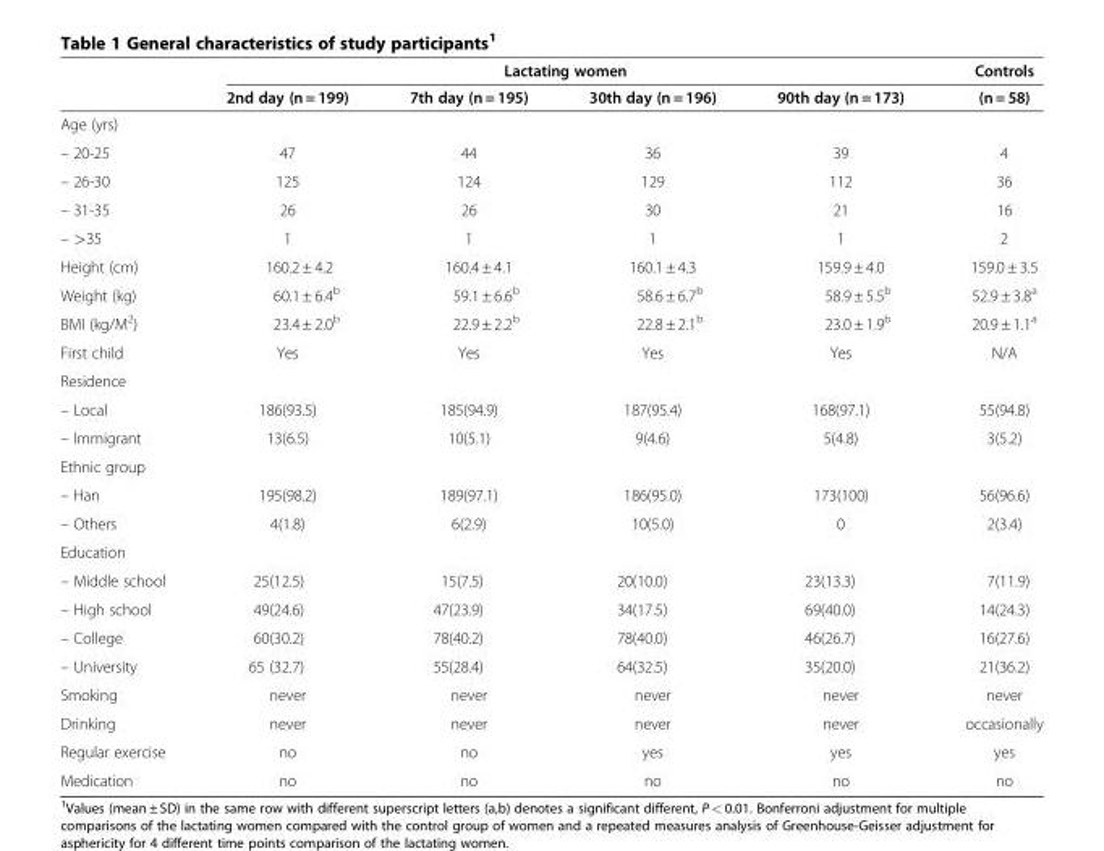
<table><thead><tr><td rowspan="2"></td><td colspan="4">Lactating women</td><td rowspan="2">Controls (n = 58)</td></tr><tr><td>2nd day (n = 199)</td><td>7th day (n = 195)</td><td>30th day (n = 196)</td><td>90th day (n = 173)</td></tr></thead><tbody><tr><td colspan="6">Age (yrs)</td></tr><tr><td>– 20-25</td><td>47</td><td>44</td><td>36</td><td>39</td><td>4</td></tr><tr><td>– 26-30</td><td>125</td><td>124</td><td>129</td><td>112</td><td>36</td></tr><tr><td>– 31-35</td><td>26</td><td>26</td><td>30</td><td>21</td><td>16</td></tr><tr><td>– &gt;35</td><td>1</td><td>1</td><td>1</td><td>1</td><td>2</td></tr><tr><td>Height (cm)</td><td>160.2 ± 4.2</td><td>160.4 ± 4.1</td><td>160.1 ± 4.3</td><td>159.9 ± 4.0</td><td>159.0 ± 3.5</td></tr><tr><td>Weight (kg)</td><td>60.1 ± 6.4<sup>b</sup></td><td>59.1 ± 6.6<sup>b</sup></td><td>58.6 ± 6.7<sup>b</sup></td><td>58.9 ± 5.5<sup>b</sup></td><td>52.9 ± 3.8<sup>a</sup></td></tr><tr><td>BMI (kg/M<sup>2</sup>)</td><td>23.4 ± 2.0<sup>b</sup></td><td>22.9 ± 2.2<sup>b</sup></td><td>22.8 ± 2.1<sup>b</sup></td><td>23.0 ± 1.9<sup>b</sup></td><td>20.9 ± 1.1<sup>a</sup></td></tr><tr><td>First child</td><td>Yes</td><td>Yes</td><td>Yes</td><td>Yes</td><td>N/A</td></tr><tr><td colspan="6">Residence</td></tr><tr><td>– Local</td><td>186(93.5)</td><td>185(94.9)</td><td>187(95.4)</td><td>168(97.1)</td><td>55(94.8)</td></tr><tr><td>– Immigrant</td><td>13(6.5)</td><td>10(5.1)</td><td>9(4.6)</td><td>5(4.8)</td><td>3(5.2)</td></tr><tr><td colspan="6">Ethnic group</td></tr><tr><td>– Han</td><td>195(98.2)</td><td>189(97.1)</td><td>186(95.0)</td><td>173(100)</td><td>56(96.6)</td></tr><tr><td>– Others</td><td>4(1.8)</td><td>6(2.9)</td><td>10(5.0)</td><td>0</td><td>2(3.4)</td></tr><tr><td colspan="6">Education</td></tr><tr><td>– Middle school</td><td>25(12.5)</td><td>15(7.5)</td><td>20(10.0)</td><td>23(13.3)</td><td>7(11.9)</td></tr><tr><td>– High school</td><td>49(24.6)</td><td>47(23.9)</td><td>34(17.5)</td><td>69(40.0)</td><td>14(24.3)</td></tr><tr><td>– College</td><td>60(30.2)</td><td>78(40.2)</td><td>78(40.0)</td><td>46(26.7)</td><td>16(27.6)</td></tr><tr><td>– University</td><td>65 (32.7)</td><td>55(28.4)</td><td>64(32.5)</td><td>35(20.0)</td><td>21(36.2)</td></tr><tr><td>Smoking</td><td>never</td><td>never</td><td>never</td><td>never</td><td>never</td></tr><tr><td>Drinking</td><td>never</td><td>never</td><td>never</td><td>never</td><td>occasionally</td></tr><tr><td>Regular exercise</td><td>no</td><td>no</td><td>yes</td><td>yes</td><td>yes</td></tr><tr><td>Medication</td><td>no</td><td>no</td><td>no</td><td>no</td><td>no</td></tr></tbody></table>